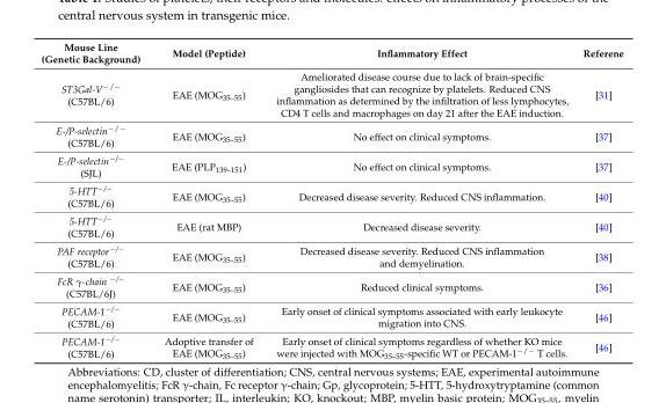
<table><thead><tr><td>Mouse Line (Genetic Background)</td><td>Model (Peptide)</td><td>Inflammatory Effect</td><td>Referene</td></tr></thead><tbody><tr><td>ST3Gal-V<sup>−/−</sup> (C57BL/6)</td><td>EAE (MOG<sub>35–55</sub>)</td><td>Ameliorated disease course due to lack of brain-specific gangliosides that can recognize by platelets. Reduced CNS inflammation as determined by the infiltration of less lymphocytes, CD4 T cells and macrophages on day 21 after the EAE induction.</td><td>[31]</td></tr><tr><td>E-/P-selectin<sup>−/−</sup> (C57BL/6)</td><td>EAE (MOG<sub>35–55</sub>)</td><td>No effect on clinical symptoms.</td><td>[37]</td></tr><tr><td>E-/P-selectin<sup>−/−</sup> (SJL)</td><td>EAE (PLP<sub>139–151</sub>)</td><td>No effect on clinical symptoms.</td><td>[37]</td></tr><tr><td>5-HTT<sup>−/−</sup> (C57BL/6)</td><td>EAE (MOG<sub>35–55</sub>)</td><td>Decreased disease severity. Reduced CNS inflammation.</td><td>[40]</td></tr><tr><td>5-HTT<sup>−/−</sup> (C57BL/6)</td><td>EAE (rat MBP)</td><td>Decreased disease severity.</td><td>[40]</td></tr><tr><td>PAF receptor<sup>−/−</sup> (C57BL/6)</td><td>EAE (MOG<sub>35–55</sub>)</td><td>Decreased disease severity. Reduced CNS inflammation and demyelination.</td><td>[38]</td></tr><tr><td>FcR γ-chain <sup>−/−</sup> (C57BL/6J)</td><td>EAE (MOG<sub>35–55</sub>)</td><td>Reduced clinical symptoms.</td><td>[36]</td></tr><tr><td>PECAM-1<sup>−/−</sup> (C57BL/6)</td><td>EAE (MOG<sub>35–55</sub>)</td><td>Early onset of clinical symptoms associated with early leukocyte migration into CNS.</td><td>[46]</td></tr><tr><td>PECAM-1<sup>−/−</sup> (C57BL/6)</td><td>Adoptive transfer of EAE (MOG<sub>35–55</sub>)</td><td>Early onset of clinical symptoms regardless of whether KO mice were injected with MOG<sub>35–55</sub>-specific WT or PECAM-1<sup>−/−</sup> T cells.</td><td>[46]</td></tr></tbody></table>